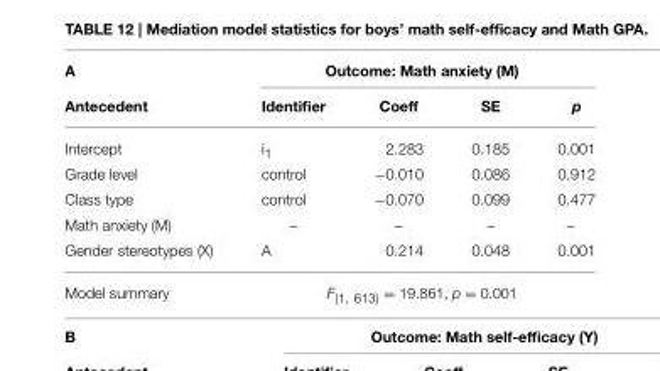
<table><thead><tr><td rowspan="2">A Antecedent</td><td colspan="4">Outcome: Math anxiety (M)</td></tr><tr><td>Identifier</td><td>Coeff</td><td>SE</td><td>p</td></tr></thead><tbody><tr><td>Intercept</td><td>i<sub>1</sub></td><td>2.283</td><td>0.185</td><td>0.001</td></tr><tr><td>Grade level</td><td>control</td><td>−0.010</td><td>0.086</td><td>0.912</td></tr><tr><td>Class type</td><td>control</td><td>−0.070</td><td>0.099</td><td>0.477</td></tr><tr><td>Math anxiety (M)</td><td>–</td><td>–</td><td>–</td><td>–</td></tr><tr><td>Gender stereotypes (X)</td><td>A</td><td>0.214</td><td>0.048</td><td>0.001</td></tr><tr><td>Model summary</td><td colspan="4">F<sub>(1, 613)</sub> = 19.861, p = 0.001</td></tr></tbody></table>